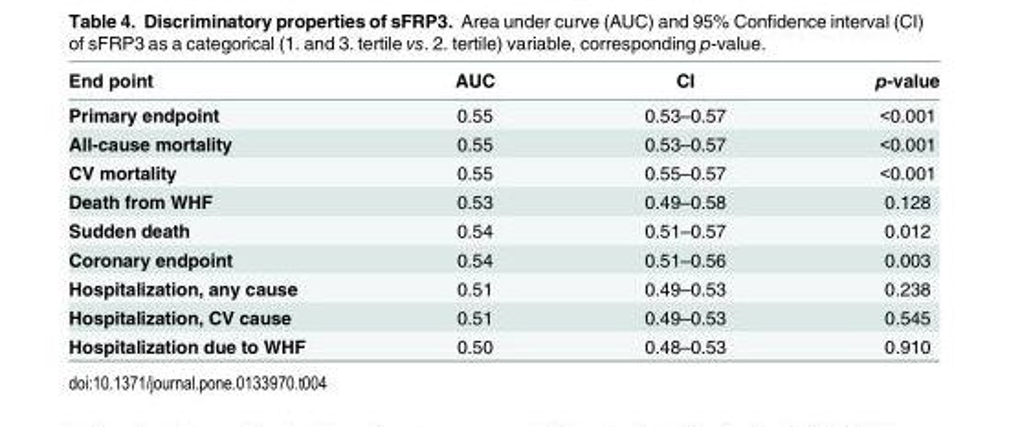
<table><thead><tr><td>End point</td><td>AUC</td><td>CI</td><td>p-value</td></tr></thead><tbody><tr><td>Primary endpoint</td><td>0.55</td><td>0.53–0.57</td><td>&lt;0.001</td></tr><tr><td>All-cause mortality</td><td>0.55</td><td>0.53–0.57</td><td>&lt;0.001</td></tr><tr><td>CV mortality</td><td>0.55</td><td>0.55–0.57</td><td>&lt;0.001</td></tr><tr><td>Death from WHF</td><td>0.53</td><td>0.49–0.58</td><td>0.128</td></tr><tr><td>Sudden death</td><td>0.54</td><td>0.51–0.57</td><td>0.012</td></tr><tr><td>Coronary endpoint</td><td>0.54</td><td>0.51–0.56</td><td>0.003</td></tr><tr><td>Hospitalization, any cause</td><td>0.51</td><td>0.49–0.53</td><td>0.238</td></tr><tr><td>Hospitalization, CV cause</td><td>0.51</td><td>0.49–0.53</td><td>0.545</td></tr><tr><td>Hospitalization due to WHF</td><td>0.50</td><td>0.48–0.53</td><td>0.910</td></tr></tbody></table>